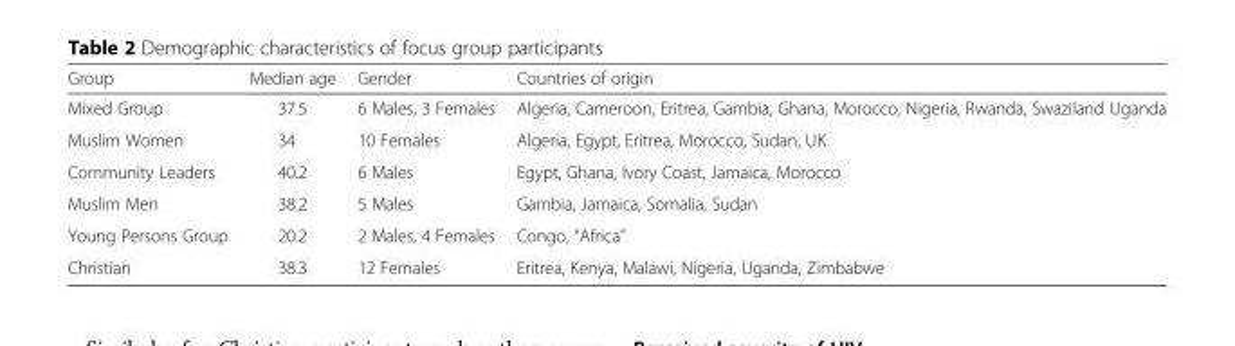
<table><thead><tr><td>Group</td><td>Median age</td><td>Gender</td><td>Countries of origin</td></tr></thead><tbody><tr><td>Mixed Group</td><td>37.5</td><td>6 Males, 3 Females</td><td>Algeria, Cameroon, Eritrea, Gambia, Ghana, Morocco, Nigeria, Rwanda, Swaziland Uganda</td></tr><tr><td>Muslim Women</td><td>34</td><td>10 Females</td><td>Algeria, Egypt, Eritrea, Morocco, Sudan, UK</td></tr><tr><td>Community Leaders</td><td>40.2</td><td>6 Males</td><td>Egypt, Ghana, Ivory Coast, Jamaica, Morocco</td></tr><tr><td>Muslim Men</td><td>38.2</td><td>5 Males</td><td>Gambia, Jamaica, Somalia, Sudan</td></tr><tr><td>Young Persons Group</td><td>20.2</td><td>2 Males, 4 Females</td><td>Congo, “Africa”</td></tr><tr><td>Christian</td><td>38.3</td><td>12 Females</td><td>Eritrea, Kenya, Malawi, Nigeria, Uganda, Zimbabwe</td></tr></tbody></table>